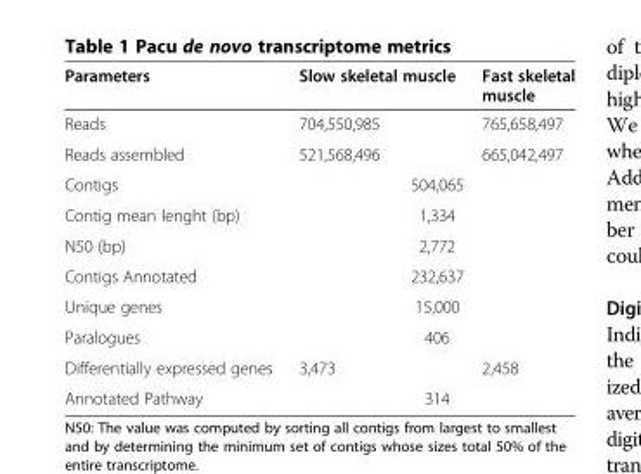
<table><thead><tr><td>Parameters</td><td>Slow skeletal muscle</td><td>Fast skeletal muscle</td></tr></thead><tbody><tr><td>Reads</td><td>704,550,985</td><td>765,658,497</td></tr><tr><td>Reads assembled</td><td>521,568,496</td><td>665,042,497</td></tr><tr><td>Contigs</td><td colspan="2">504,065</td></tr><tr><td>Contig mean lenght (bp)</td><td colspan="2">1,334</td></tr><tr><td>N50 (bp)</td><td colspan="2">2,772</td></tr><tr><td>Contigs Annotated</td><td colspan="2">232,637</td></tr><tr><td>Unique genes</td><td colspan="2">15,000</td></tr><tr><td>Paralogues</td><td colspan="2">406</td></tr><tr><td>Differentially expressed genes</td><td>3,473</td><td>2,458</td></tr><tr><td>Annotated Pathway</td><td colspan="2">314</td></tr></tbody></table>